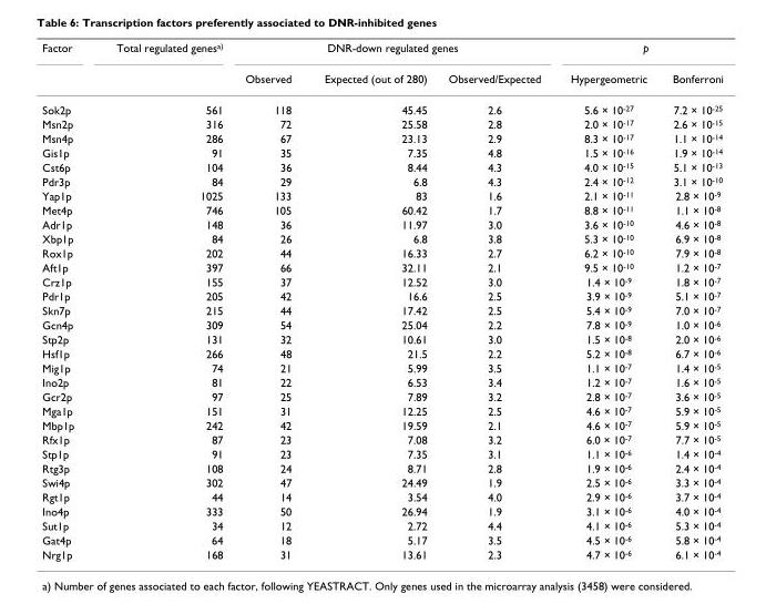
<table><thead><tr><td rowspan="2">Factor</td><td rowspan="2">Total regulated genes<sup>a)</sup></td><td colspan="3">DNR-down regulated genes</td><td colspan="2">p</td></tr><tr><td>Observed</td><td>Expected (out of 280)</td><td>Observed/Expected</td><td>Hypergeometric</td><td>Bonferroni</td></tr></thead><tbody><tr><td>Sok2p</td><td>561</td><td>118</td><td>45.45</td><td>2.6</td><td>5.6 × 10<sup>-27</sup></td><td>7.2 × 10<sup>-25</sup></td></tr><tr><td>Msn2p</td><td>316</td><td>72</td><td>25.58</td><td>2.8</td><td>2.0 × 10<sup>-17</sup></td><td>2.6 × 10<sup>-15</sup></td></tr><tr><td>Msn4p</td><td>286</td><td>67</td><td>23.13</td><td>2.9</td><td>8.3 × 10<sup>-17</sup></td><td>1.1 × 10<sup>-14</sup></td></tr><tr><td>Gis1p</td><td>91</td><td>35</td><td>7.35</td><td>4.8</td><td>1.5 × 10<sup>-16</sup></td><td>1.9 × 10<sup>-14</sup></td></tr><tr><td>Cst6p</td><td>104</td><td>36</td><td>8.44</td><td>4.3</td><td>4.0 × 10<sup>-15</sup></td><td>5.1 × 10<sup>-13</sup></td></tr><tr><td>Pdr3p</td><td>84</td><td>29</td><td>6.8</td><td>4.3</td><td>2.4 × 10<sup>-12</sup></td><td>3.1 × 10<sup>-10</sup></td></tr><tr><td>Yap1p</td><td>1025</td><td>133</td><td>83</td><td>1.6</td><td>2.1 × 10<sup>-11</sup></td><td>2.8 × 10<sup>-9</sup></td></tr><tr><td>Met4p</td><td>746</td><td>105</td><td>60.42</td><td>1.7</td><td>8.8 × 10<sup>-11</sup></td><td>1.1 × 10<sup>-8</sup></td></tr><tr><td>Adr1p</td><td>148</td><td>36</td><td>11.97</td><td>3.0</td><td>3.6 × 10<sup>-10</sup></td><td>4.6 × 10<sup>-8</sup></td></tr><tr><td>Xbp1p</td><td>84</td><td>26</td><td>6.8</td><td>3.8</td><td>5.3 × 10<sup>-10</sup></td><td>6.9 × 10<sup>-8</sup></td></tr><tr><td>Rox1p</td><td>202</td><td>44</td><td>16.33</td><td>2.7</td><td>6.2 × 10<sup>-10</sup></td><td>7.9 × 10<sup>-8</sup></td></tr><tr><td>Aft1p</td><td>397</td><td>66</td><td>32.11</td><td>2.1</td><td>9.5 × 10<sup>-10</sup></td><td>1.2 × 10<sup>-7</sup></td></tr><tr><td>Crz1p</td><td>155</td><td>37</td><td>12.52</td><td>3.0</td><td>1.4 × 10<sup>-9</sup></td><td>1.8 × 10<sup>-7</sup></td></tr><tr><td>Pdr1p</td><td>205</td><td>42</td><td>16.6</td><td>2.5</td><td>3.9 × 10<sup>-9</sup></td><td>5.1 × 10<sup>-7</sup></td></tr><tr><td>Skn7p</td><td>215</td><td>44</td><td>17.42</td><td>2.5</td><td>5.4 × 10<sup>-9</sup></td><td>7.0 × 10<sup>-7</sup></td></tr><tr><td>Gcn4p</td><td>309</td><td>54</td><td>25.04</td><td>2.2</td><td>7.8 × 10<sup>-9</sup></td><td>1.0 × 10<sup>-6</sup></td></tr><tr><td>Stp2p</td><td>131</td><td>32</td><td>10.61</td><td>3.0</td><td>1.5 × 10<sup>-8</sup></td><td>2.0 × 10<sup>-6</sup></td></tr><tr><td>Hsf1p</td><td>266</td><td>48</td><td>21.5</td><td>2.2</td><td>5.2 × 10<sup>-8</sup></td><td>6.7 × 10<sup>-6</sup></td></tr><tr><td>Mig1p</td><td>74</td><td>21</td><td>5.99</td><td>3.5</td><td>1.1 × 10<sup>-7</sup></td><td>1.4 × 10<sup>-5</sup></td></tr><tr><td>Ino2p</td><td>81</td><td>22</td><td>6.53</td><td>3.4</td><td>1.2 × 10<sup>-7</sup></td><td>1.6 × 10<sup>-5</sup></td></tr><tr><td>Gcr2p</td><td>97</td><td>25</td><td>7.89</td><td>3.2</td><td>2.8 × 10<sup>-7</sup></td><td>3.6 × 10<sup>-5</sup></td></tr><tr><td>Mga1p</td><td>151</td><td>31</td><td>12.25</td><td>2.5</td><td>4.6 × 10<sup>-7</sup></td><td>5.9 × 10<sup>-5</sup></td></tr><tr><td>Mbp1p</td><td>242</td><td>42</td><td>19.59</td><td>2.1</td><td>4.6 × 10<sup>-7</sup></td><td>5.9 × 10<sup>-5</sup></td></tr><tr><td>Rfx1p</td><td>87</td><td>23</td><td>7.08</td><td>3.2</td><td>6.0 × 10<sup>-7</sup></td><td>7.7 × 10<sup>-5</sup></td></tr><tr><td>Stp1p</td><td>91</td><td>23</td><td>7.35</td><td>3.1</td><td>1.1 × 10<sup>-6</sup></td><td>1.4 × 10<sup>-4</sup></td></tr><tr><td>Rtg3p</td><td>108</td><td>24</td><td>8.71</td><td>2.8</td><td>1.9 × 10<sup>-6</sup></td><td>2.4 × 10<sup>-4</sup></td></tr><tr><td>Swi4p</td><td>302</td><td>47</td><td>24.49</td><td>1.9</td><td>2.5 × 10<sup>-6</sup></td><td>3.3 × 10<sup>-4</sup></td></tr><tr><td>Rgt1p</td><td>44</td><td>14</td><td>3.54</td><td>4.0</td><td>2.9 × 10<sup>-6</sup></td><td>3.7 × 10<sup>-4</sup></td></tr><tr><td>Ino4p</td><td>333</td><td>50</td><td>26.94</td><td>1.9</td><td>3.1 × 10<sup>-6</sup></td><td>4.0 × 10<sup>-4</sup></td></tr><tr><td>Sut1p</td><td>34</td><td>12</td><td>2.72</td><td>4.4</td><td>4.1 × 10<sup>-6</sup></td><td>5.3 × 10<sup>-4</sup></td></tr><tr><td>Gat4p</td><td>64</td><td>18</td><td>5.17</td><td>3.5</td><td>4.5 × 10<sup>-6</sup></td><td>5.8 × 10<sup>-4</sup></td></tr><tr><td>Nrg1p</td><td>168</td><td>31</td><td>13.61</td><td>2.3</td><td>4.7 × 10<sup>-6</sup></td><td>6.1 × 10<sup>-4</sup></td></tr></tbody></table>